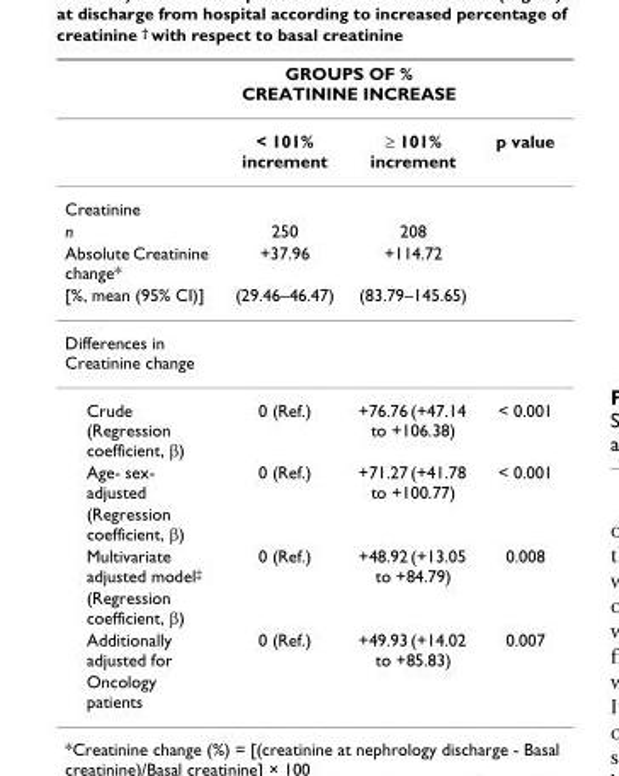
<table><thead><tr><td rowspan="2"></td><td colspan="2">GROUPS OF % CREATININE INCREASE</td><td rowspan="2">p value</td></tr><tr><td>&lt; 101% increment</td><td>≥ 101% increment</td></tr></thead><tbody><tr><td colspan="4">Creatinine</td></tr><tr><td>n</td><td>250</td><td>208</td><td></td></tr><tr><td>Absolute Creatinine change*</td><td>+37.96</td><td>+114.72</td><td></td></tr><tr><td>[%, mean (95% CI)]</td><td>(29.46–46.47)</td><td>(83.79–145.65)</td><td></td></tr><tr><td colspan="4">Differences in Creatinine change</td></tr><tr><td>Crude (Regression coefficient, β)</td><td>0 (Ref.)</td><td>+76.76 (+47.14 to +106.38)</td><td>&lt; 0.001</td></tr><tr><td>Age- sex- adjusted</td><td>0 (Ref.)</td><td>+71.27 (+41.78 to +100.77)</td><td>&lt; 0.001</td></tr><tr><td colspan="4">(Regression coefficient, β)</td></tr><tr><td>Multivariate adjusted model<sup>‡</sup></td><td>0 (Ref.)</td><td>+48.92 (+13.05 to +84.79)</td><td>0.008</td></tr><tr><td colspan="4">(Regression coefficient, β)</td></tr><tr><td>Additionally adjusted for</td><td>0 (Ref.)</td><td>+49.93 (+14.02 to +85.83)</td><td>0.007</td></tr><tr><td>Oncology patients</td><td></td><td></td><td></td></tr></tbody></table>